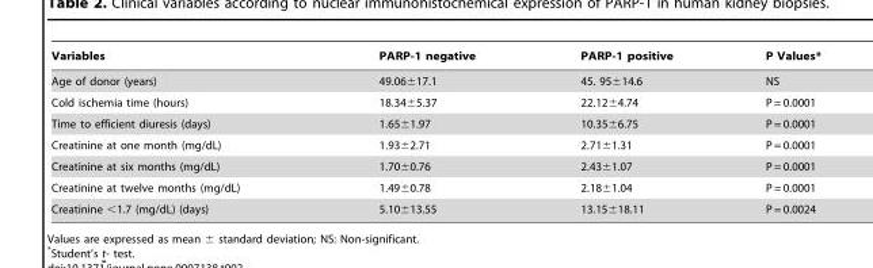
<table><thead><tr><td>Variables</td><td>PARP-1 negative</td><td>PARP-1 positive</td><td>P Values*</td></tr></thead><tbody><tr><td>Age of donor (years)</td><td>49.06±17.1</td><td>45. 95±14.6</td><td>NS</td></tr><tr><td>Cold ischemia time (hours)</td><td>18.34±5.37</td><td>22.12±4.74</td><td>P = 0.0001</td></tr><tr><td>Time to efficient diuresis (days)</td><td>1.65±1.97</td><td>10.35±6.75</td><td>P = 0.0001</td></tr><tr><td>Creatinine at one month (mg/dL)</td><td>1.93±2.71</td><td>2.71±1.31</td><td>P = 0.0001</td></tr><tr><td>Creatinine at six months (mg/dL)</td><td>1.70±0.76</td><td>2.43±1.07</td><td>P = 0.0001</td></tr><tr><td>Creatinine at twelve months (mg/dL)</td><td>1.49±0.78</td><td>2.18±1.04</td><td>P = 0.0001</td></tr><tr><td>Creatinine &lt;1.7 (mg/dL) (days)</td><td>5.10±13.55</td><td>13.15±18.11</td><td>P = 0.0024</td></tr></tbody></table>